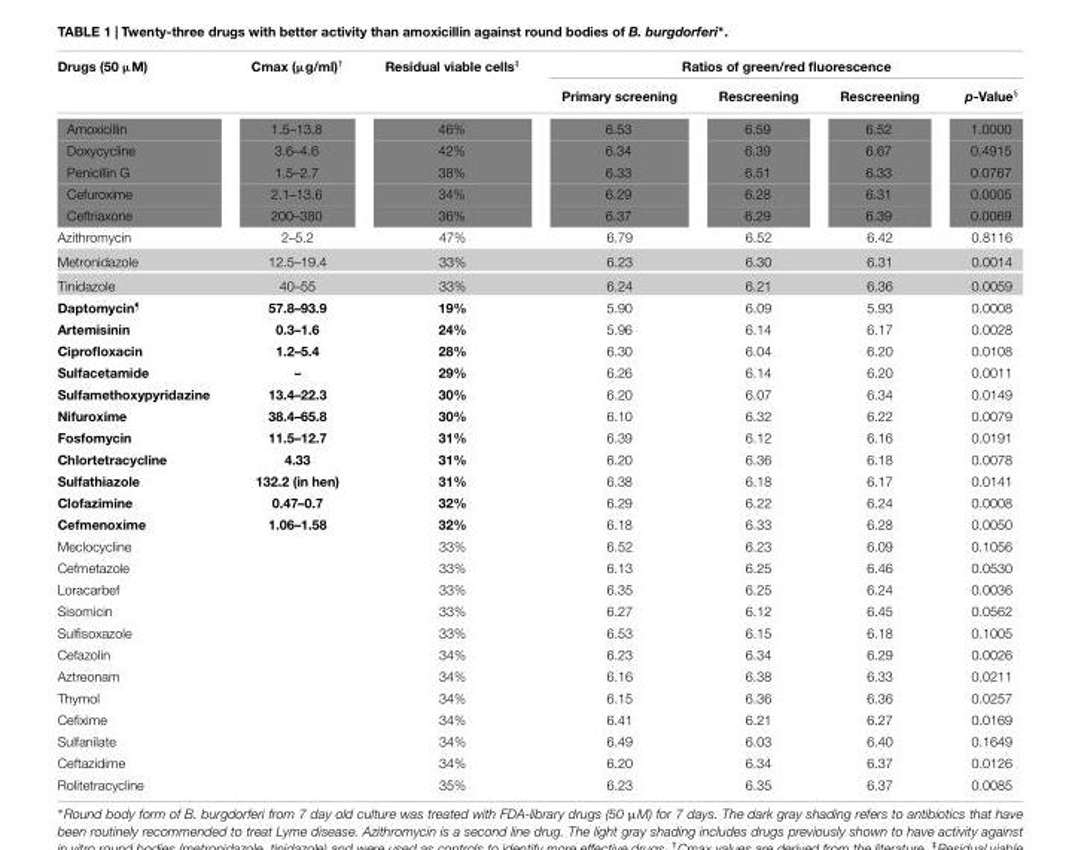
<table><thead><tr><td rowspan="2">Drugs (50 µM)</td><td rowspan="2">Cmax (µg/ml)<sup>†</sup></td><td rowspan="2">Residual viable cells<sup>‡</sup></td><td colspan="4">Ratios of green/red fluorescence</td></tr><tr><td>Primary screening</td><td>Rescreening</td><td>Rescreening</td><td>p-Value<sup>§</sup></td></tr></thead><tbody><tr><td>Amoxicillin</td><td>1.5–13.8</td><td>46%</td><td>6.53</td><td>6.59</td><td>6.52</td><td>1.0000</td></tr><tr><td>Doxycycline</td><td>3.6–4.6</td><td>42%</td><td>6.34</td><td>6.39</td><td>6.67</td><td>0.4915</td></tr><tr><td>Penicillin G</td><td>1.5–2.7</td><td>38%</td><td>6.33</td><td>6.51</td><td>6.33</td><td>0.0767</td></tr><tr><td>Cefuroxime</td><td>2.1–13.6</td><td>34%</td><td>6.29</td><td>6.28</td><td>6.31</td><td>0.0005</td></tr><tr><td>Ceftriaxone</td><td>200–380</td><td>36%</td><td>6.37</td><td>6.29</td><td>6.39</td><td>0.0069</td></tr><tr><td>Azithromycin</td><td>2–5.2</td><td>47%</td><td>6.79</td><td>6.52</td><td>6.42</td><td>0.8116</td></tr><tr><td>Metronidazole</td><td>12.5–19.4</td><td>33%</td><td>6.23</td><td>6.30</td><td>6.31</td><td>0.0014</td></tr><tr><td>Tinidazole</td><td>40–55</td><td>33%</td><td>6.24</td><td>6.21</td><td>6.36</td><td>0.0059</td></tr><tr><td>Daptomycin¶</td><td>57.8–93.9</td><td>19%</td><td>5.90</td><td>6.09</td><td>5.93</td><td>0.0008</td></tr><tr><td>Artemisinin</td><td>0.3–1.6</td><td>24%</td><td>5.96</td><td>6.14</td><td>6.17</td><td>0.0028</td></tr><tr><td>Ciprofloxacin</td><td>1.2–5.4</td><td>28%</td><td>6.30</td><td>6.04</td><td>6.20</td><td>0.0108</td></tr><tr><td>Sulfacetamide</td><td>–</td><td>29%</td><td>6.26</td><td>6.14</td><td>6.20</td><td>0.0011</td></tr><tr><td>Sulfamethoxypyridazine</td><td>13.4–22.3</td><td>30%</td><td>6.20</td><td>6.07</td><td>6.34</td><td>0.0149</td></tr><tr><td>Nifuroxime</td><td>38.4–65.8</td><td>30%</td><td>6.10</td><td>6.32</td><td>6.22</td><td>0.0079</td></tr><tr><td>Fosfomycin</td><td>11.5–12.7</td><td>31%</td><td>6.39</td><td>6.12</td><td>6.16</td><td>0.0191</td></tr><tr><td>Chlortetracycline</td><td>4.33</td><td>31%</td><td>6.20</td><td>6.36</td><td>6.18</td><td>0.0078</td></tr><tr><td>Sulfathiazole</td><td>132.2 (in hen)</td><td>31%</td><td>6.38</td><td>6.18</td><td>6.17</td><td>0.0141</td></tr><tr><td>Clofazimine</td><td>0.47–0.7</td><td>32%</td><td>6.29</td><td>6.22</td><td>6.24</td><td>0.0008</td></tr><tr><td>Cefmenoxime</td><td>1.06–1.58</td><td>32%</td><td>6.18</td><td>6.33</td><td>6.28</td><td>0.0050</td></tr><tr><td>Meclocycline</td><td></td><td>33%</td><td>6.52</td><td>6.23</td><td>6.09</td><td>0.1056</td></tr><tr><td>Cefmetazole</td><td></td><td>33%</td><td>6.13</td><td>6.25</td><td>6.46</td><td>0.0530</td></tr><tr><td>Loracarbef</td><td></td><td>33%</td><td>6.35</td><td>6.25</td><td>6.24</td><td>0.0036</td></tr><tr><td>Sisomicin</td><td></td><td>33%</td><td>6.27</td><td>6.12</td><td>6.45</td><td>0.0562</td></tr><tr><td>Sulfisoxazole</td><td></td><td>33%</td><td>6.53</td><td>6.15</td><td>6.18</td><td>0.1005</td></tr><tr><td>Cefazolin</td><td></td><td>34%</td><td>6.23</td><td>6.34</td><td>6.29</td><td>0.0026</td></tr><tr><td>Aztreonam</td><td></td><td>34%</td><td>6.16</td><td>6.38</td><td>6.33</td><td>0.0211</td></tr><tr><td>Thymol</td><td></td><td>34%</td><td>6.15</td><td>6.36</td><td>6.36</td><td>0.0257</td></tr><tr><td>Cefixime</td><td></td><td>34%</td><td>6.41</td><td>6.21</td><td>6.27</td><td>0.0169</td></tr><tr><td>Sulfanilate</td><td></td><td>34%</td><td>6.49</td><td>6.03</td><td>6.40</td><td>0.1649</td></tr><tr><td>Ceftazidime</td><td></td><td>34%</td><td>6.20</td><td>6.34</td><td>6.37</td><td>0.0126</td></tr><tr><td>Rolitetracycline</td><td></td><td>35%</td><td>6.23</td><td>6.35</td><td>6.37</td><td>0.0085</td></tr></tbody></table>